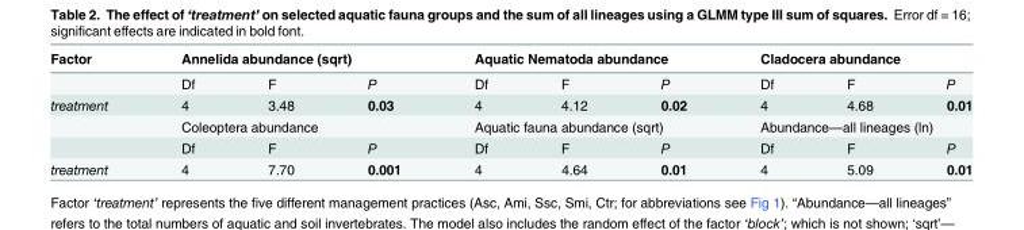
<table><thead><tr><td rowspan="2">Factor</td><td colspan="3">Annelida abundance (sqrt)</td><td colspan="3">Aquatic Nematoda abundance</td><td colspan="3">Cladocera abundance</td></tr><tr><td>Df</td><td>F</td><td>P</td><td>Df</td><td>F</td><td>P</td><td>Df</td><td>F</td><td>P</td></tr></thead><tbody><tr><td rowspan="3">treatment</td><td>4</td><td>3.48</td><td>0.03</td><td>4</td><td>4.12</td><td>0.02</td><td>4</td><td>4.68</td><td>0.01</td></tr><tr><td colspan="3">Coleoptera abundance</td><td colspan="3">Aquatic fauna abundance (sqrt)</td><td colspan="3">Abundance—all lineages (ln)</td></tr><tr><td>Df</td><td>F</td><td>P</td><td>Df</td><td>F</td><td>P</td><td>Df</td><td>F</td><td>P</td></tr><tr><td>treatment</td><td>4</td><td>7.70</td><td>0.001</td><td>4</td><td>4.64</td><td>0.01</td><td>4</td><td>5.09</td><td>0.01</td></tr></tbody></table>